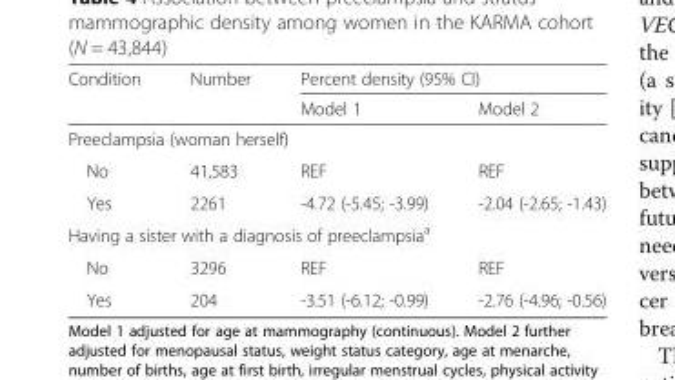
<table><thead><tr><td rowspan="2">Condition</td><td rowspan="2">Number</td><td colspan="2">Percent density (95% CI)</td></tr><tr><td>Model 1</td><td>Model 2</td></tr></thead><tbody><tr><td colspan="4">Preeclampsia (woman herself)</td></tr><tr><td>No</td><td>41,583</td><td>REF</td><td>REF</td></tr><tr><td>Yes</td><td>2261</td><td>-4.72 (-5.45; -3.99)</td><td>-2.04 (-2.65; -1.43)</td></tr><tr><td colspan="4">Having a sister with a diagnosis of preeclampsia<sup>a</sup></td></tr><tr><td>No</td><td>3296</td><td>REF</td><td>REF</td></tr><tr><td>Yes</td><td>204</td><td>-3.51 (-6.12; -0.99)</td><td>-2.76 (-4.96; -0.56)</td></tr></tbody></table>